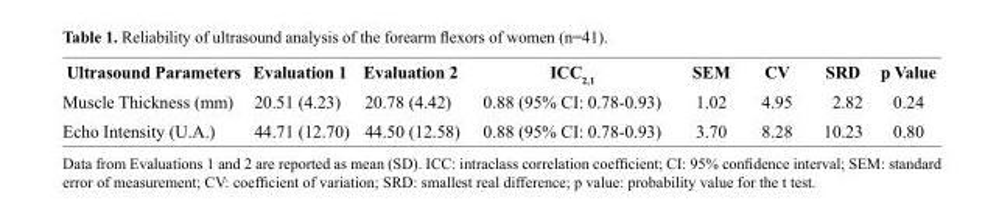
<table><thead><tr><td>Ultrasound Parameters</td><td>Evaluation 1</td><td>Evaluation 2</td><td>ICC<sub>2,1</sub></td><td>SEM</td><td>CV</td><td>SRD</td><td>p Value</td></tr></thead><tbody><tr><td>Muscle Thickness (mm)</td><td>20.51 (4.23)</td><td>20.78 (4.42)</td><td>0.88 (95% CI: 0.78-0.93)</td><td>1.02</td><td>4.95</td><td>2.82</td><td>0.24</td></tr><tr><td>Echo Intensity (U.A.)</td><td>44.71 (12.70)</td><td>44.50 (12.58)</td><td>0.88 (95% CI: 0.78-0.93)</td><td>3.70</td><td>8.28</td><td>10.23</td><td>0.80</td></tr></tbody></table>